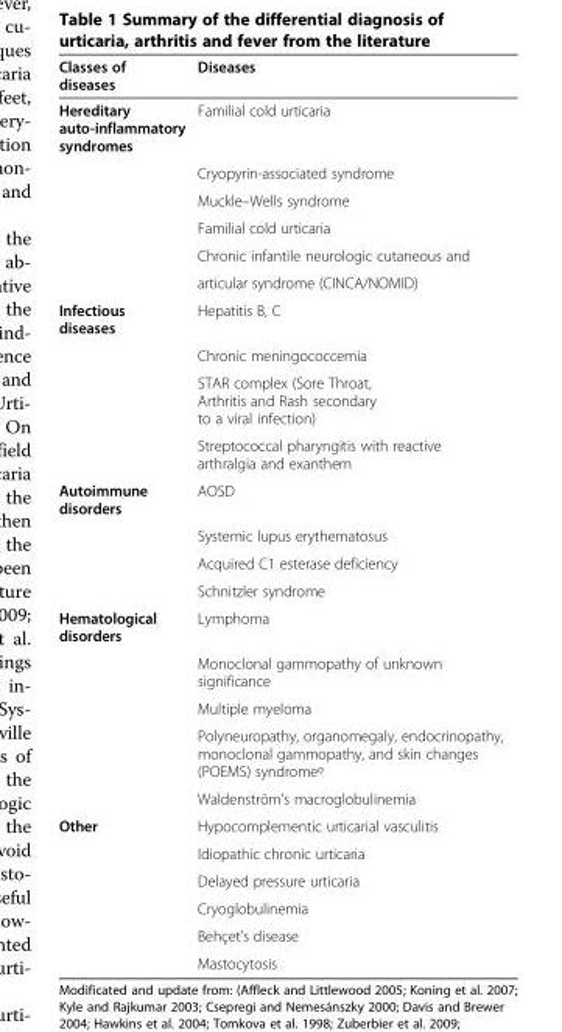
<table><thead><tr><td>Classes of diseases</td><td>Diseases</td></tr></thead><tbody><tr><td rowspan="6">Hereditary auto-inflammatory syndromes</td><td>Familial cold urticaria</td></tr><tr><td>Cryopyrin-associated syndrome</td></tr><tr><td>Muckle–Wells syndrome</td></tr><tr><td>Familial cold urticaria</td></tr><tr><td>Chronic infantile neurologic cutaneous and</td></tr><tr><td>articular syndrome (CINCA/NOMID)</td></tr><tr><td rowspan="4">Infectious diseases</td><td>Hepatitis B, C</td></tr><tr><td>Chronic meningococcemia</td></tr><tr><td>STAR complex (Sore Throat, Arthritis and Rash secondary to a viral infection)</td></tr><tr><td>Streptococcal pharyngitis with reactive arthralgia and exanthem</td></tr><tr><td rowspan="4">Autoimmune disorders</td><td>AOSD</td></tr><tr><td>Systemic lupus erythematosus</td></tr><tr><td>Acquired C1 esterase deficiency</td></tr><tr><td>Schnitzler syndrome</td></tr><tr><td rowspan="5">Hematological disorders</td><td>Lymphoma</td></tr><tr><td>Monoclonal gammopathy of unknown significance</td></tr><tr><td>Multiple myeloma</td></tr><tr><td>Polyneuropathy, organomegaly, endocrinopathy, monoclonal gammopathy, and skin changes (POEMS) syndromeº</td></tr><tr><td>Waldenström’s macroglobulinemia</td></tr><tr><td rowspan="6">Other</td><td>Hypocomplementic urticarial vasculitis</td></tr><tr><td>Idiopathic chronic urticaria</td></tr><tr><td>Delayed pressure urticaria</td></tr><tr><td>Cryoglobulinemia</td></tr><tr><td>Behçet’s disease</td></tr><tr><td>Mastocytosis</td></tr></tbody></table>